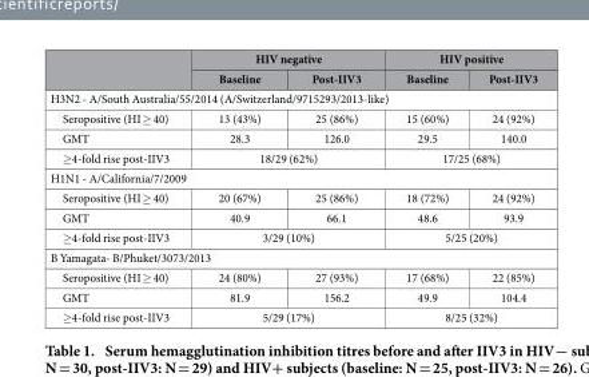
<table><thead><tr><td rowspan="2"></td><td colspan="2">HIV negative</td><td colspan="2">HIV positive</td></tr><tr><td>Baseline</td><td>Post-IIV3</td><td>Baseline</td><td>Post-IIV3</td></tr></thead><tbody><tr><td colspan="5">H3N2 - A/South Australia/55/2014 (A/Switzerland/9715293/2013-like)</td></tr><tr><td>Seropositive (HI ≥ 40)</td><td>13 (43%)</td><td>25 (86%)</td><td>15 (60%)</td><td>24 (92%)</td></tr><tr><td>GMT</td><td>28.3</td><td>126.0</td><td>29.5</td><td>140.0</td></tr><tr><td>≥4-fold rise post-IIV3</td><td colspan="2">18/29 (62%)</td><td colspan="2">17/25 (68%)</td></tr><tr><td colspan="5">H1N1 - A/California/7/2009</td></tr><tr><td>Seropositive (HI ≥ 40)</td><td>20 (67%)</td><td>25 (86%)</td><td>18 (72%)</td><td>24 (92%)</td></tr><tr><td>GMT</td><td>40.9</td><td>66.1</td><td>48.6</td><td>93.9</td></tr><tr><td>≥4-fold rise post-IIV3</td><td colspan="2">3/29 (10%)</td><td colspan="2">5/25 (20%)</td></tr><tr><td colspan="5">B Yamagata- B/Phuket/3073/2013</td></tr><tr><td>Seropositive (HI ≥ 40)</td><td>24 (80%)</td><td>27 (93%)</td><td>17 (68%)</td><td>22 (85%)</td></tr><tr><td>GMT</td><td>81.9</td><td>156.2</td><td>49.9</td><td>104.4</td></tr><tr><td>≥4-fold rise post-IIV3</td><td colspan="2">5/29 (17%)</td><td colspan="2">8/25 (32%)</td></tr></tbody></table>